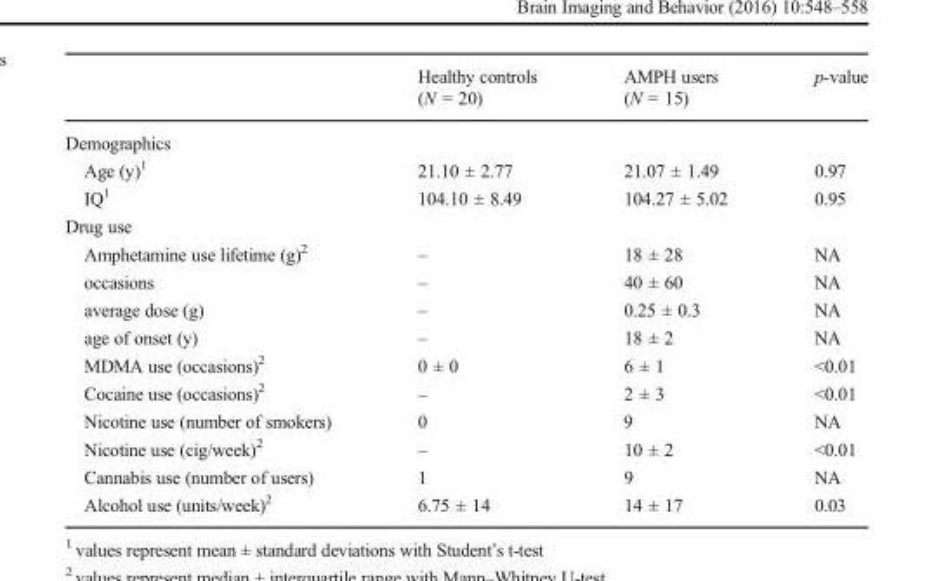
<table><thead><tr><td></td><td>Healthy controls (N = 20)</td><td>AMPH users (N = 15)</td><td>p-value</td></tr></thead><tbody><tr><td colspan="4">Demographics</td></tr><tr><td>Age (y)<sup>1</sup></td><td>21.10 ± 2.77</td><td>21.07 ± 1.49</td><td>0.97</td></tr><tr><td>IQ<sup>1</sup></td><td>104.10 ± 8.49</td><td>104.27 ± 5.02</td><td>0.95</td></tr><tr><td colspan="4">Drug use</td></tr><tr><td>Amphetamine use lifetime (g)<sup>2</sup></td><td>–</td><td>18 ± 28</td><td>NA</td></tr><tr><td>occasions</td><td>–</td><td>40 ± 60</td><td>NA</td></tr><tr><td>average dose (g)</td><td>–</td><td>0.25 ± 0.3</td><td>NA</td></tr><tr><td>age of onset (y)</td><td>–</td><td>18 ± 2</td><td>NA</td></tr><tr><td>MDMA use (occasions)<sup>2</sup></td><td>0 ± 0</td><td>6 ± 1</td><td>&lt;0.01</td></tr><tr><td>Cocaine use (occasions)<sup>2</sup></td><td>–</td><td>2 ± 3</td><td>&lt;0.01</td></tr><tr><td>Nicotine use (number of smokers)</td><td>0</td><td>9</td><td>NA</td></tr><tr><td>Nicotine use (cig/week)<sup>2</sup></td><td>–</td><td>10 ± 2</td><td>&lt;0.01</td></tr><tr><td>Cannabis use (number of users)</td><td>1</td><td>9</td><td>NA</td></tr><tr><td>Alcohol use (units/week)<sup>2</sup></td><td>6.75 ± 14</td><td>14 ± 17</td><td>0.03</td></tr></tbody></table>